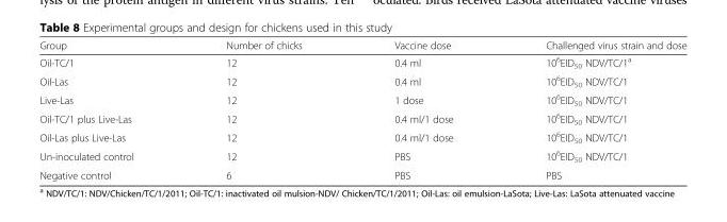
<table><thead><tr><td>Group</td><td>Number of chicks</td><td>Vaccine dose</td><td>Challenged virus strain and dose</td></tr></thead><tbody><tr><td>Oil-TC/1</td><td>12</td><td>0.4 ml</td><td>10<sup>6</sup>EID<sub>50</sub> NDV/TC/1<sup>a</sup></td></tr><tr><td>Oil-Las</td><td>12</td><td>0.4 ml</td><td>10<sup>6</sup>EID<sub>50</sub> NDV/TC/1</td></tr><tr><td>Live-Las</td><td>12</td><td>1 dose</td><td>10<sup>6</sup>EID<sub>50</sub> NDV/TC/1</td></tr><tr><td>Oil-TC/1 plus Live-Las</td><td>12</td><td>0.4 ml/1 dose</td><td>10<sup>6</sup>EID<sub>50</sub> NDV/TC/1</td></tr><tr><td>Oil-Las plus Live-Las</td><td>12</td><td>0.4 ml/1 dose</td><td>10<sup>6</sup>EID<sub>50</sub> NDV/TC/1</td></tr><tr><td>Un-inoculated control</td><td>12</td><td>PBS</td><td>10<sup>6</sup>EID<sub>50</sub> NDV/TC/1</td></tr><tr><td>Negative control</td><td>6</td><td>PBS</td><td>PBS</td></tr></tbody></table>